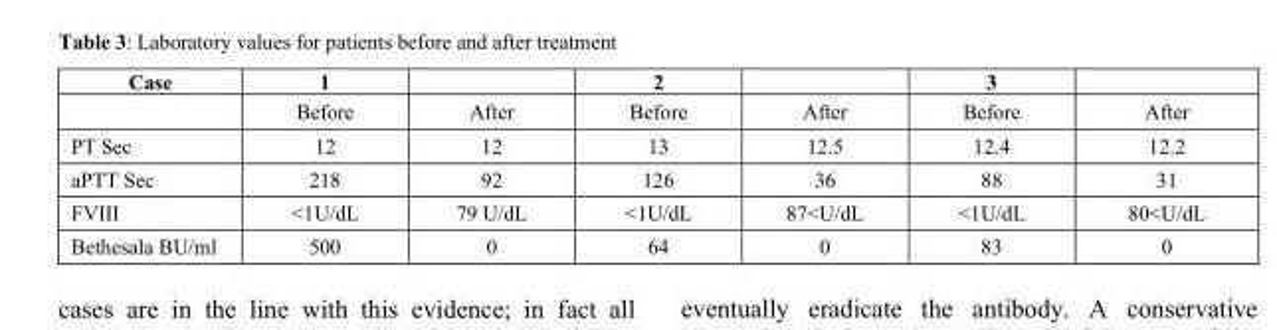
<table><thead><tr><td>Case</td><td>1</td><td></td><td>2</td><td></td><td>3</td><td></td></tr></thead><tbody><tr><td></td><td>Before</td><td>After</td><td>Before</td><td>After</td><td>Before</td><td>After</td></tr><tr><td>PT Sec</td><td>12</td><td>12</td><td>13</td><td>12.5</td><td>12.4</td><td>12.2</td></tr><tr><td>aPTT Sec</td><td>218</td><td>92</td><td>126</td><td>36</td><td>88</td><td>31</td></tr><tr><td>FVIII</td><td>&lt;1U/dL</td><td>79 U/dL</td><td>&lt;1U/dL</td><td>87&lt;U/dL</td><td>&lt;1U/dL</td><td>80&lt;U/dL</td></tr><tr><td>Bethesala BU/ml</td><td>500</td><td>0</td><td>64</td><td>0</td><td>83</td><td>0</td></tr></tbody></table>